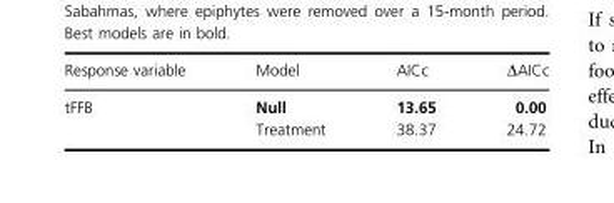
<table><thead><tr><td>Response variable</td><td>Model</td><td>AICc</td><td>ΔAICc</td></tr></thead><tbody><tr><td rowspan="2">tFFB</td><td>Null</td><td>13.65</td><td>0.00</td></tr><tr><td>Treatment</td><td>38.37</td><td>24.72</td></tr></tbody></table>